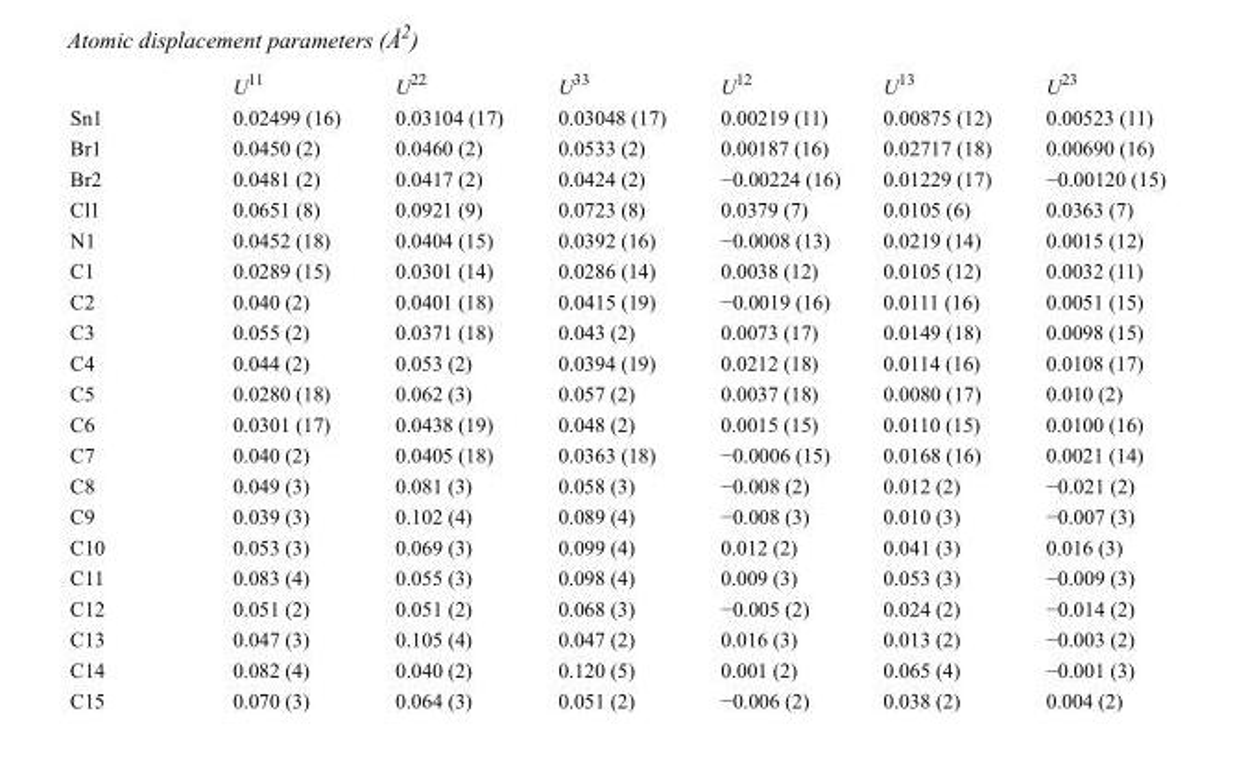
<table><thead><tr><td></td><td>U<sup>11</sup></td><td>U<sup>22</sup></td><td>U<sup>33</sup></td><td>U<sup>12</sup></td><td>U<sup>13</sup></td><td>U<sup>23</sup></td></tr></thead><tbody><tr><td>Sn1</td><td>0.02499 (16)</td><td>0.03104 (17)</td><td>0.03048 (17)</td><td>0.00219 (11)</td><td>0.00875 (12)</td><td>0.00523 (11)</td></tr><tr><td>Br1</td><td>0.0450 (2)</td><td>0.0460 (2)</td><td>0.0533 (2)</td><td>0.00187 (16)</td><td>0.02717 (18)</td><td>0.00690 (16)</td></tr><tr><td>Br2</td><td>0.0481 (2)</td><td>0.0417 (2)</td><td>0.0424 (2)</td><td>−0.00224 (16)</td><td>0.01229 (17)</td><td>−0.00120 (15)</td></tr><tr><td>Cl1</td><td>0.0651 (8)</td><td>0.0921 (9)</td><td>0.0723 (8)</td><td>0.0379 (7)</td><td>0.0105 (6)</td><td>0.0363 (7)</td></tr><tr><td>N1</td><td>0.0452 (18)</td><td>0.0404 (15)</td><td>0.0392 (16)</td><td>−0.0008 (13)</td><td>0.0219 (14)</td><td>0.0015 (12)</td></tr><tr><td>C1</td><td>0.0289 (15)</td><td>0.0301 (14)</td><td>0.0286 (14)</td><td>0.0038 (12)</td><td>0.0105 (12)</td><td>0.0032 (11)</td></tr><tr><td>C2</td><td>0.040 (2)</td><td>0.0401 (18)</td><td>0.0415 (19)</td><td>−0.0019 (16)</td><td>0.0111 (16)</td><td>0.0051 (15)</td></tr><tr><td>C3</td><td>0.055 (2)</td><td>0.0371 (18)</td><td>0.043 (2)</td><td>0.0073 (17)</td><td>0.0149 (18)</td><td>0.0098 (15)</td></tr><tr><td>C4</td><td>0.044 (2)</td><td>0.053 (2)</td><td>0.0394 (19)</td><td>0.0212 (18)</td><td>0.0114 (16)</td><td>0.0108 (17)</td></tr><tr><td>C5</td><td>0.0280 (18)</td><td>0.062 (3)</td><td>0.057 (2)</td><td>0.0037 (18)</td><td>0.0080 (17)</td><td>0.010 (2)</td></tr><tr><td>C6</td><td>0.0301 (17)</td><td>0.0438 (19)</td><td>0.048 (2)</td><td>0.0015 (15)</td><td>0.0110 (15)</td><td>0.0100 (16)</td></tr><tr><td>C7</td><td>0.040 (2)</td><td>0.0405 (18)</td><td>0.0363 (18)</td><td>−0.0006 (15)</td><td>0.0168 (16)</td><td>0.0021 (14)</td></tr><tr><td>C8</td><td>0.049 (3)</td><td>0.081 (3)</td><td>0.058 (3)</td><td>−0.008 (2)</td><td>0.012 (2)</td><td>−0.021 (2)</td></tr><tr><td>C9</td><td>0.039 (3)</td><td>0.102 (4)</td><td>0.089 (4)</td><td>−0.008 (3)</td><td>0.010 (3)</td><td>−0.007 (3)</td></tr><tr><td>C10</td><td>0.053 (3)</td><td>0.069 (3)</td><td>0.099 (4)</td><td>0.012 (2)</td><td>0.041 (3)</td><td>0.016 (3)</td></tr><tr><td>C11</td><td>0.083 (4)</td><td>0.055 (3)</td><td>0.098 (4)</td><td>0.009 (3)</td><td>0.053 (3)</td><td>−0.009 (3)</td></tr><tr><td>C12</td><td>0.051 (2)</td><td>0.051 (2)</td><td>0.068 (3)</td><td>−0.005 (2)</td><td>0.024 (2)</td><td>−0.014 (2)</td></tr><tr><td>C13</td><td>0.047 (3)</td><td>0.105 (4)</td><td>0.047 (2)</td><td>0.016 (3)</td><td>0.013 (2)</td><td>−0.003 (2)</td></tr><tr><td>C14</td><td>0.082 (4)</td><td>0.040 (2)</td><td>0.120 (5)</td><td>0.001 (2)</td><td>0.065 (4)</td><td>−0.001 (3)</td></tr><tr><td>C15</td><td>0.070 (3)</td><td>0.064 (3)</td><td>0.051 (2)</td><td>−0.006 (2)</td><td>0.038 (2)</td><td>0.004 (2)</td></tr></tbody></table>